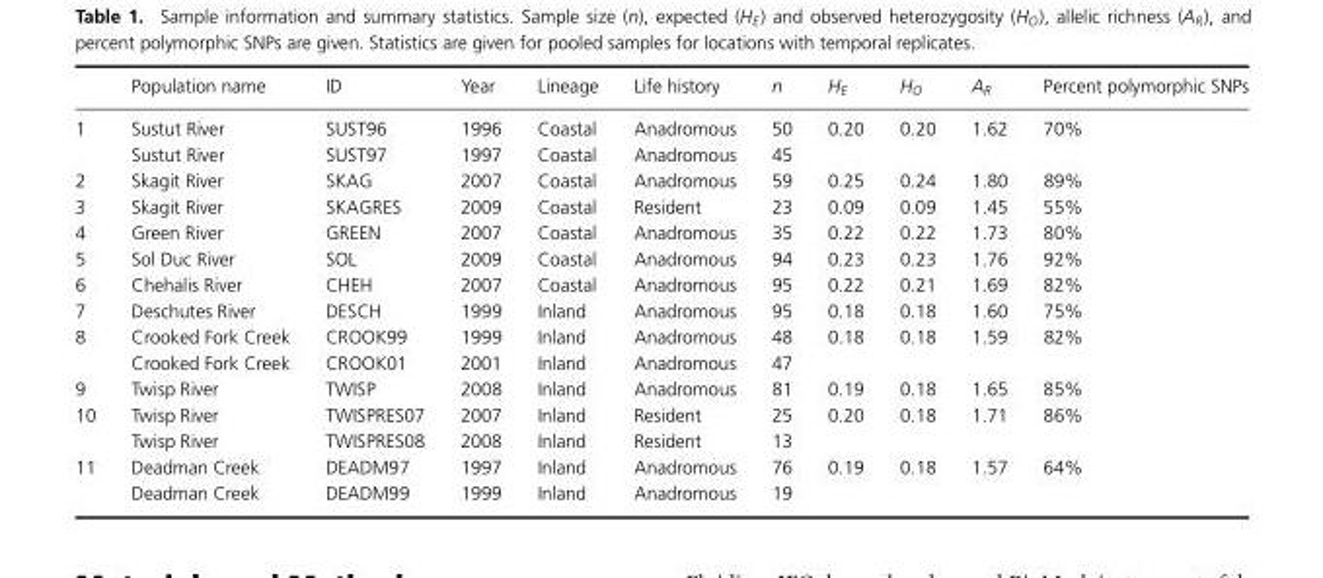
<table><thead><tr><td></td><td>Population name</td><td>ID</td><td>Year</td><td>Lineage</td><td>Life history</td><td>n</td><td>H<sub>E</sub></td><td>H<sub>O</sub></td><td>A<sub>R</sub></td><td>Percent polymorphic SNPs</td></tr></thead><tbody><tr><td rowspan="2">1</td><td>Sustut River</td><td>SUST96</td><td>1996</td><td>Coastal</td><td>Anadromous</td><td>50</td><td>0.20</td><td>0.20</td><td>1.62</td><td>70%</td></tr><tr><td>Sustut River</td><td>SUST97</td><td>1997</td><td>Coastal</td><td>Anadromous</td><td>45</td><td></td><td></td><td></td><td></td></tr><tr><td>2</td><td>Skagit River</td><td>SKAG</td><td>2007</td><td>Coastal</td><td>Anadromous</td><td>59</td><td>0.25</td><td>0.24</td><td>1.80</td><td>89%</td></tr><tr><td>3</td><td>Skagit River</td><td>SKAGRES</td><td>2009</td><td>Coastal</td><td>Resident</td><td>23</td><td>0.09</td><td>0.09</td><td>1.45</td><td>55%</td></tr><tr><td>4</td><td>Green River</td><td>GREEN</td><td>2007</td><td>Coastal</td><td>Anadromous</td><td>35</td><td>0.22</td><td>0.22</td><td>1.73</td><td>80%</td></tr><tr><td>5</td><td>Sol Duc River</td><td>SOL</td><td>2009</td><td>Coastal</td><td>Anadromous</td><td>94</td><td>0.23</td><td>0.23</td><td>1.76</td><td>92%</td></tr><tr><td>6</td><td>Chehalis River</td><td>CHEH</td><td>2007</td><td>Coastal</td><td>Anadromous</td><td>95</td><td>0.22</td><td>0.21</td><td>1.69</td><td>82%</td></tr><tr><td>7</td><td>Deschutes River</td><td>DESCH</td><td>1999</td><td>Inland</td><td>Anadromous</td><td>95</td><td>0.18</td><td>0.18</td><td>1.60</td><td>75%</td></tr><tr><td rowspan="2">8</td><td>Crooked Fork Creek</td><td>CROOK99</td><td>1999</td><td>Inland</td><td>Anadromous</td><td>48</td><td>0.18</td><td>0.18</td><td>1.59</td><td>82%</td></tr><tr><td>Crooked Fork Creek</td><td>CROOK01</td><td>2001</td><td>Inland</td><td>Anadromous</td><td>47</td><td></td><td></td><td></td><td></td></tr><tr><td>9</td><td>Twisp River</td><td>TWISP</td><td>2008</td><td>Inland</td><td>Anadromous</td><td>81</td><td>0.19</td><td>0.18</td><td>1.65</td><td>85%</td></tr><tr><td rowspan="2">10</td><td>Twisp River</td><td>TWISPRES07</td><td>2007</td><td>Inland</td><td>Resident</td><td>25</td><td>0.20</td><td>0.18</td><td>1.71</td><td>86%</td></tr><tr><td>Twisp River</td><td>TWISPRES08</td><td>2008</td><td>Inland</td><td>Resident</td><td>13</td><td></td><td></td><td></td><td></td></tr><tr><td rowspan="2">11</td><td>Deadman Creek</td><td>DEADM97</td><td>1997</td><td>Inland</td><td>Anadromous</td><td>76</td><td>0.19</td><td>0.18</td><td>1.57</td><td>64%</td></tr><tr><td>Deadman Creek</td><td>DEADM99</td><td>1999</td><td>Inland</td><td>Anadromous</td><td>19</td><td></td><td></td><td></td><td></td></tr></tbody></table>